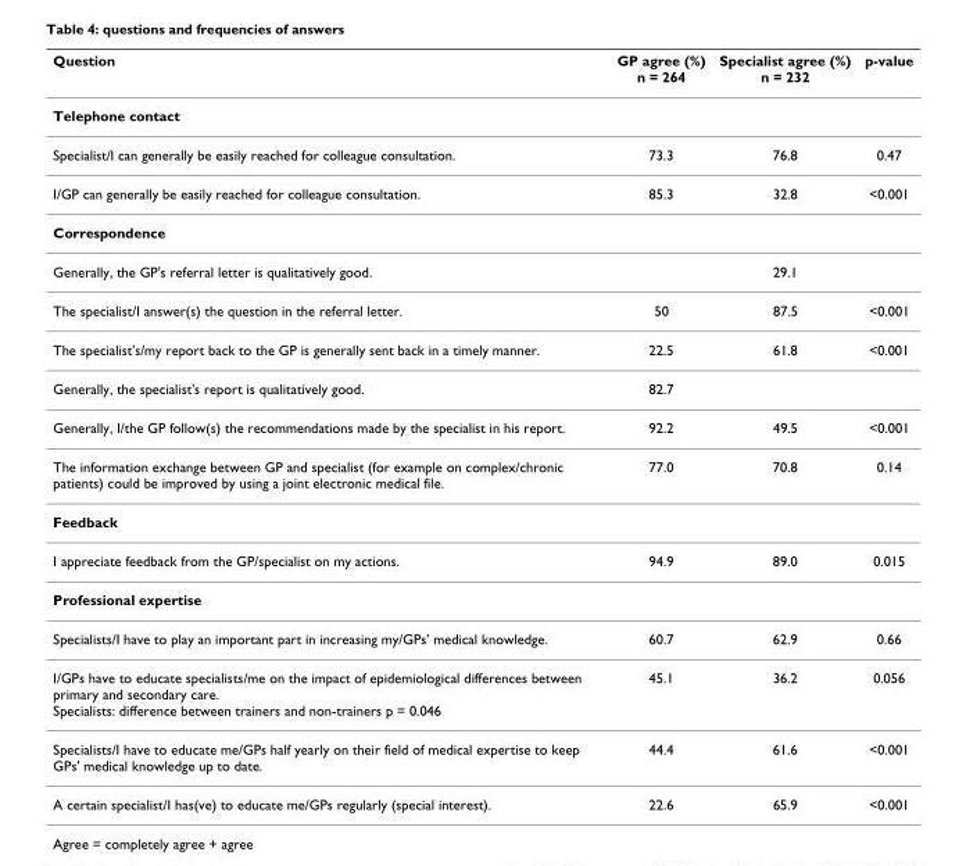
<table><thead><tr><td>Question</td><td>GP agree (%) n = 264</td><td>Specialist agree (%) n = 232</td><td>p-value</td></tr></thead><tbody><tr><td colspan="4">Telephone contact</td></tr><tr><td>Specialist/I can generally be easily reached for colleague consultation.</td><td>73.3</td><td>76.8</td><td>0.47</td></tr><tr><td>I/GP can generally be easily reached for colleague consultation.</td><td>85.3</td><td>32.8</td><td>&lt;0.001</td></tr><tr><td colspan="4">Correspondence</td></tr><tr><td>Generally, the GP&#x27;s referral letter is qualitatively good.</td><td></td><td>29.1</td><td></td></tr><tr><td>The specialist/I answer(s) the question in the referral letter.</td><td>50</td><td>87.5</td><td>&lt;0.001</td></tr><tr><td>The specialist&#x27;s/my report back to the GP is generally sent back in a timely manner.</td><td>22.5</td><td>61.8</td><td>&lt;0.001</td></tr><tr><td>Generally, the specialist&#x27;s report is qualitatively good.</td><td>82.7</td><td></td><td></td></tr><tr><td>Generally, I/the GP follow(s) the recommendations made by the specialist in his report.</td><td>92.2</td><td>49.5</td><td>&lt;0.001</td></tr><tr><td>The information exchange between GP and specialist (for example on complex/chronic patients) could be improved by using a joint electronic medical file.</td><td>77.0</td><td>70.8</td><td>0.14</td></tr><tr><td colspan="4">Feedback</td></tr><tr><td>I appreciate feedback from the GP/specialist on my actions.</td><td>94.9</td><td>89.0</td><td>0.015</td></tr><tr><td colspan="4">Professional expertise</td></tr><tr><td>Specialists/I have to play an important part in increasing my/GPs&#x27; medical knowledge.</td><td>60.7</td><td>62.9</td><td>0.66</td></tr><tr><td>I/GPs have to educate specialists/me on the impact of epidemiological differences between primary and secondary care. Specialists: difference between trainers and non-trainers p = 0.046</td><td>45.1</td><td>36.2</td><td>0.056</td></tr><tr><td>Specialists/I have to educate me/GPs half yearly on their field of medical expertise to keep GPs&#x27; medical knowledge up to date.</td><td>44.4</td><td>61.6</td><td>&lt;0.001</td></tr><tr><td>A certain specialist/I has(ve) to educate me/GPs regularly (special interest).</td><td>22.6</td><td>65.9</td><td>&lt;0.001</td></tr></tbody></table>